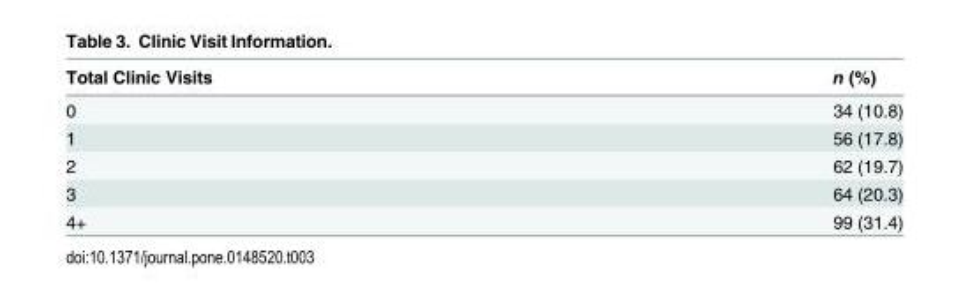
<table><thead><tr><td>Total Clinic Visits</td><td>n (%)</td></tr></thead><tbody><tr><td>0</td><td>34 (10.8)</td></tr><tr><td>1</td><td>56 (17.8)</td></tr><tr><td>2</td><td>62 (19.7)</td></tr><tr><td>3</td><td>64 (20.3)</td></tr><tr><td>4+</td><td>99 (31.4)</td></tr></tbody></table>